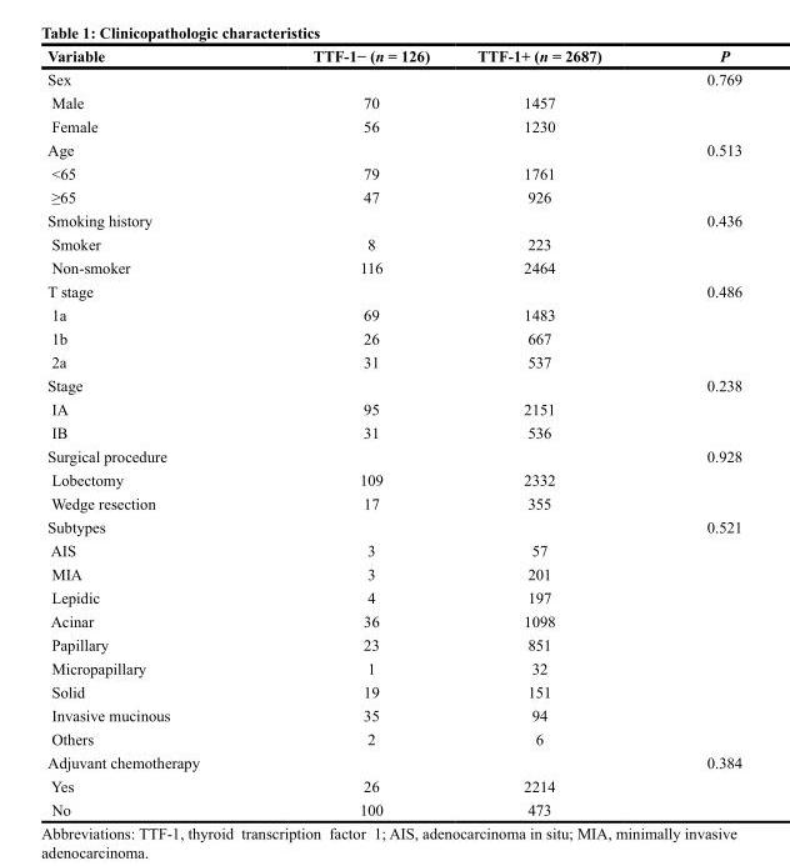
<table><thead><tr><td>Variable</td><td>TTF-1− (n = 126)</td><td>TTF-1+ (n = 2687)</td><td>P</td></tr></thead><tbody><tr><td>Sex</td><td></td><td></td><td>0.769</td></tr><tr><td>Male</td><td>70</td><td>1457</td><td></td></tr><tr><td>Female</td><td>56</td><td>1230</td><td></td></tr><tr><td>Age</td><td></td><td></td><td>0.513</td></tr><tr><td>&lt;65</td><td>79</td><td>1761</td><td></td></tr><tr><td>≥65</td><td>47</td><td>926</td><td></td></tr><tr><td>Smoking history</td><td></td><td></td><td>0.436</td></tr><tr><td>Smoker</td><td>8</td><td>223</td><td></td></tr><tr><td>Non-smoker</td><td>116</td><td>2464</td><td></td></tr><tr><td>T stage</td><td></td><td></td><td>0.486</td></tr><tr><td>1a</td><td>69</td><td>1483</td><td></td></tr><tr><td>1b</td><td>26</td><td>667</td><td></td></tr><tr><td>2a</td><td>31</td><td>537</td><td></td></tr><tr><td>Stage</td><td></td><td></td><td>0.238</td></tr><tr><td>IA</td><td>95</td><td>2151</td><td></td></tr><tr><td>IB</td><td>31</td><td>536</td><td></td></tr><tr><td>Surgical procedure</td><td></td><td></td><td>0.928</td></tr><tr><td>Lobectomy</td><td>109</td><td>2332</td><td></td></tr><tr><td>Wedge resection</td><td>17</td><td>355</td><td></td></tr><tr><td>Subtypes</td><td></td><td></td><td>0.521</td></tr><tr><td>AIS</td><td>3</td><td>57</td><td></td></tr><tr><td>MIA</td><td>3</td><td>201</td><td></td></tr><tr><td>Lepidic</td><td>4</td><td>197</td><td></td></tr><tr><td>Acinar</td><td>36</td><td>1098</td><td></td></tr><tr><td>Papillary</td><td>23</td><td>851</td><td></td></tr><tr><td>Micropapillary</td><td>1</td><td>32</td><td></td></tr><tr><td>Solid</td><td>19</td><td>151</td><td></td></tr><tr><td>Invasive mucinous</td><td>35</td><td>94</td><td></td></tr><tr><td>Others</td><td>2</td><td>6</td><td></td></tr><tr><td>Adjuvant chemotherapy</td><td></td><td></td><td>0.384</td></tr><tr><td>Yes</td><td>26</td><td>2214</td><td></td></tr><tr><td>No</td><td>100</td><td>473</td><td></td></tr></tbody></table>